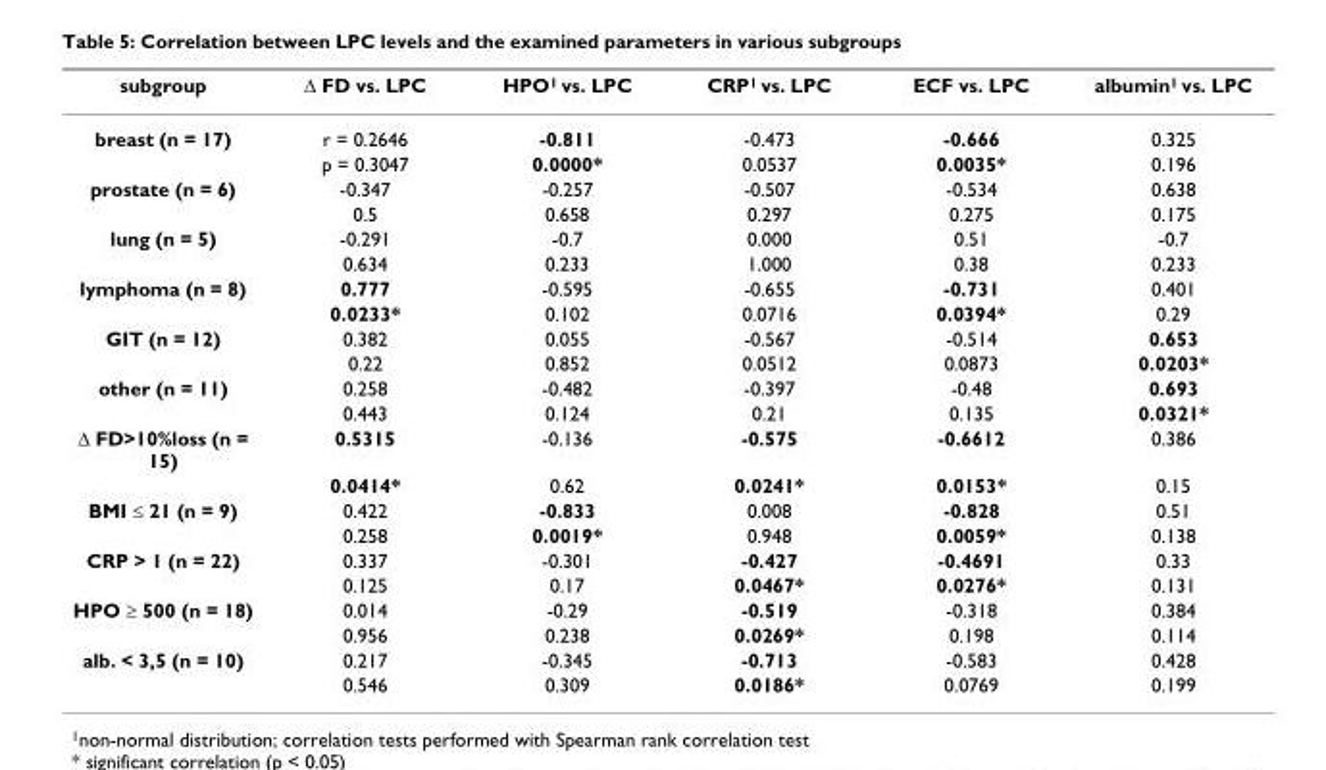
<table><thead><tr><td>subgroup</td><td>Δ FD vs. LPC</td><td>HPO<sup>1</sup> vs. LPC</td><td>CRP<sup>1</sup> vs. LPC</td><td>ECF vs. LPC</td><td>albumin<sup>1</sup> vs. LPC</td></tr></thead><tbody><tr><td rowspan="2">breast (n = 17)</td><td>r = 0.2646</td><td>-0.811</td><td>-0.473</td><td>-0.666</td><td>0.325</td></tr><tr><td>p = 0.3047</td><td>0.0000*</td><td>0.0537</td><td>0.0035*</td><td>0.196</td></tr><tr><td rowspan="2">prostate (n = 6)</td><td>-0.347</td><td>-0.257</td><td>-0.507</td><td>-0.534</td><td>0.638</td></tr><tr><td>0.5</td><td>0.658</td><td>0.297</td><td>0.275</td><td>0.175</td></tr><tr><td rowspan="2">lung (n = 5)</td><td>-0.291</td><td>-0.7</td><td>0.000</td><td>0.51</td><td>-0.7</td></tr><tr><td>0.634</td><td>0.233</td><td>1.000</td><td>0.38</td><td>0.233</td></tr><tr><td rowspan="2">lymphoma (n = 8)</td><td>0.777</td><td>-0.595</td><td>-0.655</td><td>-0.731</td><td>0.401</td></tr><tr><td>0.0233*</td><td>0.102</td><td>0.0716</td><td>0.0394*</td><td>0.29</td></tr><tr><td rowspan="2">GIT (n = 12)</td><td>0.382</td><td>0.055</td><td>-0.567</td><td>-0.514</td><td>0.653</td></tr><tr><td>0.22</td><td>0.852</td><td>0.0512</td><td>0.0873</td><td>0.0203*</td></tr><tr><td rowspan="2">other (n = 11)</td><td>0.258</td><td>-0.482</td><td>-0.397</td><td>-0.48</td><td>0.693</td></tr><tr><td>0.443</td><td>0.124</td><td>0.21</td><td>0.135</td><td>0.0321*</td></tr><tr><td rowspan="2">Δ FD&gt;10%loss (n = 15)</td><td>0.5315</td><td>-0.136</td><td>-0.575</td><td>-0.6612</td><td>0.386</td></tr><tr><td>0.0414*</td><td>0.62</td><td>0.0241*</td><td>0.0153*</td><td>0.15</td></tr><tr><td rowspan="2">BMI ≤ 21 (n = 9)</td><td>0.422</td><td>-0.833</td><td>0.008</td><td>-0.828</td><td>0.51</td></tr><tr><td>0.258</td><td>0.0019*</td><td>0.948</td><td>0.0059*</td><td>0.138</td></tr><tr><td rowspan="2">CRP &gt; 1 (n = 22)</td><td>0.337</td><td>-0.301</td><td>-0.427</td><td>-0.4691</td><td>0.33</td></tr><tr><td>0.125</td><td>0.17</td><td>0.0467*</td><td>0.0276*</td><td>0.131</td></tr><tr><td rowspan="2">HPO ≥ 500 (n = 18)</td><td>0.014</td><td>-0.29</td><td>-0.519</td><td>-0.318</td><td>0.384</td></tr><tr><td>0.956</td><td>0.238</td><td>0.0269*</td><td>0.198</td><td>0.114</td></tr><tr><td rowspan="2">alb. &lt; 3,5 (n = 10)</td><td>0.217</td><td>-0.345</td><td>-0.713</td><td>-0.583</td><td>0.428</td></tr><tr><td>0.546</td><td>0.309</td><td>0.0186*</td><td>0.0769</td><td>0.199</td></tr></tbody></table>